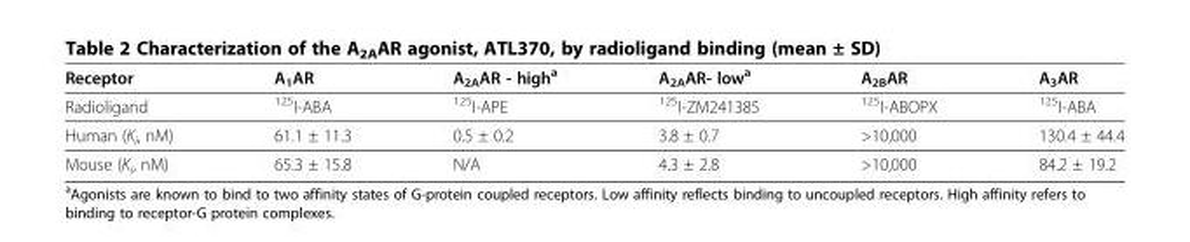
<table><thead><tr><td>Receptor</td><td>A<sub>1</sub>AR</td><td>A<sub>2A</sub>AR - high<sup>a</sup></td><td>A<sub>2A</sub>AR- low<sup>a</sup></td><td>A<sub>2B</sub>AR</td><td>A<sub>3</sub>AR</td></tr></thead><tbody><tr><td>Radioligand</td><td><sup>125</sup>I-ABA</td><td><sup>125</sup>I-APE</td><td><sup>125</sup>I-ZM241385</td><td><sup>125</sup>I-ABOPX</td><td><sup>125</sup>I-ABA</td></tr><tr><td>Human (K<sub>i</sub>, nM)</td><td>61.1 ± 11.3</td><td>0.5 ± 0.2</td><td>3.8 ± 0.7</td><td>&gt;10,000</td><td>130.4 ± 44.4</td></tr><tr><td>Mouse (K<sub>i</sub>, nM)</td><td>65.3 ± 15.8</td><td>N/A</td><td>4.3 ± 2.8</td><td>&gt;10,000</td><td>84.2 ± 19.2</td></tr></tbody></table>